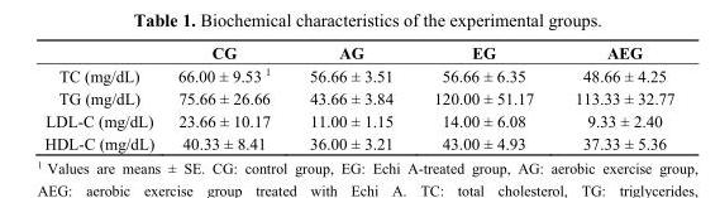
<table><thead><tr><td></td><td>CG</td><td>AG</td><td>EG</td><td>AEG</td></tr></thead><tbody><tr><td>TC (mg/dL)</td><td>66.00 ± 9.53 <sup>1</sup></td><td>56.66 ± 3.51</td><td>56.66 ± 6.35</td><td>48.66 ± 4.25</td></tr><tr><td>TG (mg/dL)</td><td>75.66 ± 26.66</td><td>43.66 ± 3.84</td><td>120.00 ± 51.17</td><td>113.33 ± 32.77</td></tr><tr><td>LDL-C (mg/dL)</td><td>23.66 ± 10.17</td><td>11.00 ± 1.15</td><td>14.00 ± 6.08</td><td>9.33 ± 2.40</td></tr><tr><td>HDL-C (mg/dL)</td><td>40.33 ± 8.41</td><td>36.00 ± 3.21</td><td>43.00 ± 4.93</td><td>37.33 ± 5.36</td></tr></tbody></table>